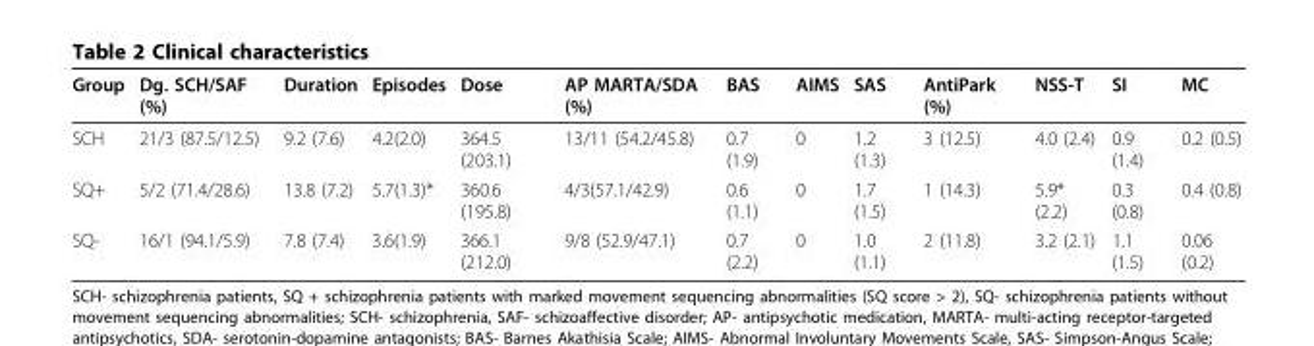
<table><thead><tr><td>Group</td><td>Dg. SCH/SAF (%)</td><td>Duration</td><td>Episodes</td><td>Dose</td><td>AP MARTA/SDA (%)</td><td>BAS</td><td>AIMS</td><td>SAS</td><td>AntiPark (%)</td><td>NSS-T</td><td>SI</td><td>MC</td></tr></thead><tbody><tr><td>SCH</td><td>21/3 (87.5/12.5)</td><td>9.2 (7.6)</td><td>4.2(2.0)</td><td>364.5 (203.1)</td><td>13/11 (54.2/45.8)</td><td>0.7 (1.9)</td><td>0</td><td>1.2 (1.3)</td><td>3 (12.5)</td><td>4.0 (2.4)</td><td>0.9 (1.4)</td><td>0.2 (0.5)</td></tr><tr><td>SQ+</td><td>5/2 (71.4/28.6)</td><td>13.8 (7.2)</td><td>5.7(1.3)*</td><td>360.6 (195.8)</td><td>4/3(57.1/42.9)</td><td>0.6 (1.1)</td><td>0</td><td>1.7 (1.5)</td><td>1 (14.3)</td><td>5.9* (2.2)</td><td>0.3 (0.8)</td><td>0.4 (0.8)</td></tr><tr><td>SQ-</td><td>16/1 (94.1/5.9)</td><td>7.8 (7.4)</td><td>3.6(1.9)</td><td>366.1 (212.0)</td><td>9/8 (52.9/47.1)</td><td>0.7 (2.2)</td><td>0</td><td>1.0 (1.1)</td><td>2 (11.8)</td><td>3.2 (2.1)</td><td>1.1 (1.5)</td><td>0.06 (0.2)</td></tr></tbody></table>